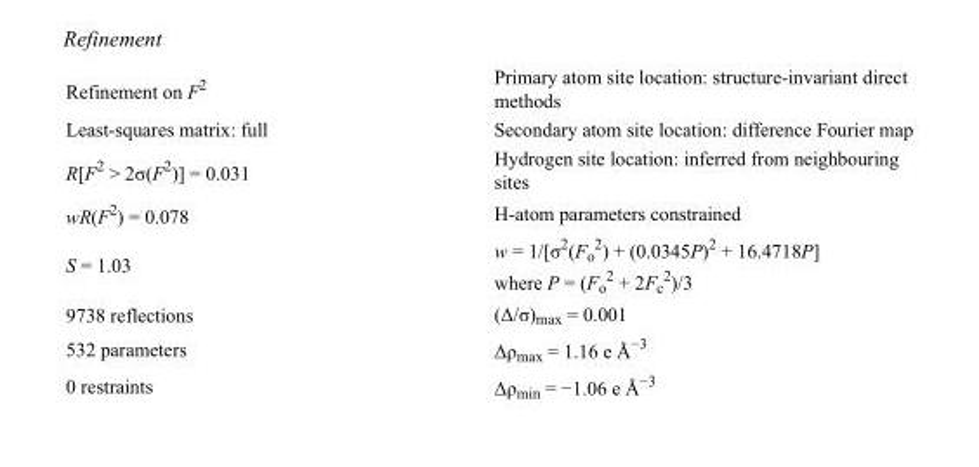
<table><tbody><tr><td>Refinement on F<sup>2</sup></td><td>Primary atom site location: structure-invariant direct methods</td></tr><tr><td>Least-squares matrix: full</td><td>Secondary atom site location: difference Fourier map</td></tr><tr><td>R[F<sup>2</sup> &gt; 2σ(F<sup>2</sup>)] = 0.031</td><td>Hydrogen site location: inferred from neighbouring sites</td></tr><tr><td>wR(F<sup>2</sup>) = 0.078</td><td>H-atom parameters constrained</td></tr><tr><td>S = 1.03</td><td>w = 1/[σ<sup>2</sup>(F<sub>o</sub> <sup>2</sup>) + (0.0345P)<sup>2</sup> + 16.4718P] where P = (F<sub>o</sub> <sup>2</sup> + 2F<sub>c</sub> <sup>2</sup>)/3</td></tr><tr><td>9738 reflections</td><td>(Δ/σ)<sub>max</sub> = 0.001</td></tr><tr><td>532 parameters</td><td>Δρ<sub>max</sub> = 1.16 e Å<sup>−3</sup></td></tr><tr><td>0 restraints</td><td>Δρ<sub>min</sub> = −1.06 e Å<sup>−3</sup></td></tr></tbody></table>